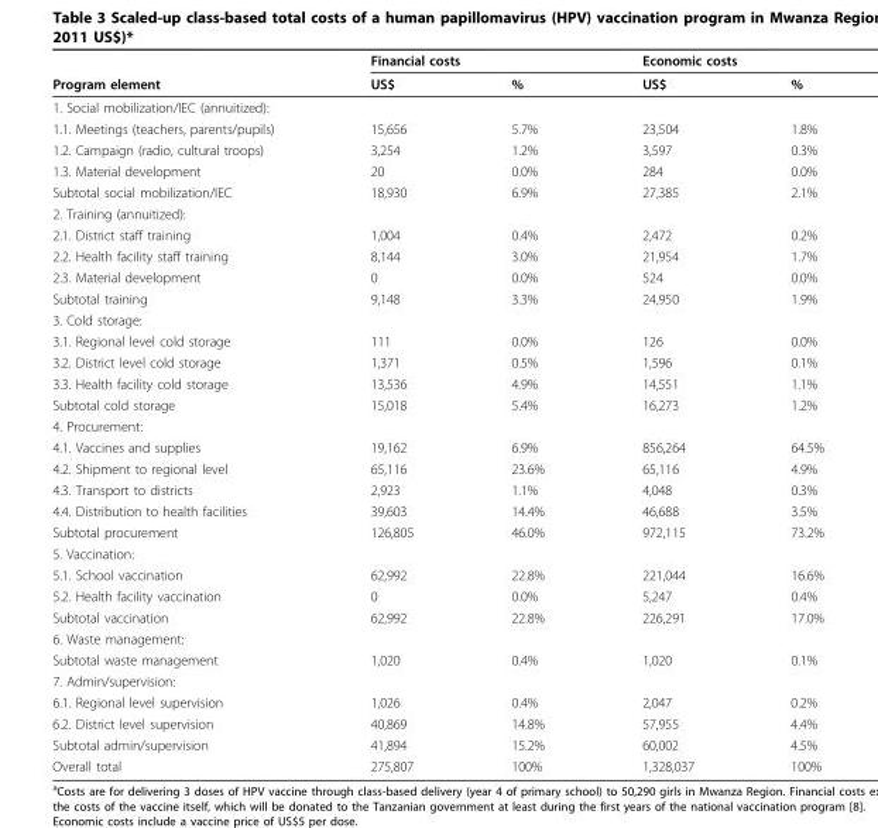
<table><thead><tr><td rowspan="2">Program element</td><td colspan="2">Financial costs</td><td colspan="2">Economic costs</td></tr><tr><td>US$</td><td>%</td><td>US$</td><td>%</td></tr></thead><tbody><tr><td colspan="5">1. Social mobilization/IEC (annuitized):</td></tr><tr><td>1.1. Meetings (teachers, parents/pupils)</td><td>15,656</td><td>5.7%</td><td>23,504</td><td>1.8%</td></tr><tr><td>1.2. Campaign (radio, cultural troops)</td><td>3,254</td><td>1.2%</td><td>3,597</td><td>0.3%</td></tr><tr><td>1.3. Material development</td><td>20</td><td>0.0%</td><td>284</td><td>0.0%</td></tr><tr><td>Subtotal social mobilization/IEC</td><td>18,930</td><td>6.9%</td><td>27,385</td><td>2.1%</td></tr><tr><td colspan="5">2. Training (annuitized):</td></tr><tr><td>2.1. District staff training</td><td>1,004</td><td>0.4%</td><td>2,472</td><td>0.2%</td></tr><tr><td>2.2. Health facility staff training</td><td>8,144</td><td>3.0%</td><td>21,954</td><td>1.7%</td></tr><tr><td>2.3. Material development</td><td>0</td><td>0.0%</td><td>524</td><td>0.0%</td></tr><tr><td>Subtotal training</td><td>9,148</td><td>3.3%</td><td>24,950</td><td>1.9%</td></tr><tr><td colspan="5">3. Cold storage:</td></tr><tr><td>3.1. Regional level cold storage</td><td>111</td><td>0.0%</td><td>126</td><td>0.0%</td></tr><tr><td>3.2. District level cold storage</td><td>1,371</td><td>0.5%</td><td>1,596</td><td>0.1%</td></tr><tr><td>3.3. Health facility cold storage</td><td>13,536</td><td>4.9%</td><td>14,551</td><td>1.1%</td></tr><tr><td>Subtotal cold storage</td><td>15,018</td><td>5.4%</td><td>16,273</td><td>1.2%</td></tr><tr><td colspan="5">4. Procurement:</td></tr><tr><td>4.1. Vaccines and supplies</td><td>19,162</td><td>6.9%</td><td>856,264</td><td>64.5%</td></tr><tr><td>4.2. Shipment to regional level</td><td>65,116</td><td>23.6%</td><td>65,116</td><td>4.9%</td></tr><tr><td>4.3. Transport to districts</td><td>2,923</td><td>1.1%</td><td>4,048</td><td>0.3%</td></tr><tr><td>4.4. Distribution to health facilities</td><td>39,603</td><td>14.4%</td><td>46,688</td><td>3.5%</td></tr><tr><td>Subtotal procurement</td><td>126,805</td><td>46.0%</td><td>972,115</td><td>73.2%</td></tr><tr><td colspan="5">5. Vaccination:</td></tr><tr><td>5.1. School vaccination</td><td>62,992</td><td>22.8%</td><td>221,044</td><td>16.6%</td></tr><tr><td>5.2. Health facility vaccination</td><td>0</td><td>0.0%</td><td>5,247</td><td>0.4%</td></tr><tr><td>Subtotal vaccination</td><td>62,992</td><td>22.8%</td><td>226,291</td><td>17.0%</td></tr><tr><td colspan="5">6. Waste management:</td></tr><tr><td>Subtotal waste management</td><td>1,020</td><td>0.4%</td><td>1,020</td><td>0.1%</td></tr><tr><td colspan="5">7. Admin/supervision:</td></tr><tr><td>6.1. Regional level supervision</td><td>1,026</td><td>0.4%</td><td>2,047</td><td>0.2%</td></tr><tr><td>6.2. District level supervision</td><td>40,869</td><td>14.8%</td><td>57,955</td><td>4.4%</td></tr><tr><td>Subtotal admin/supervision</td><td>41,894</td><td>15.2%</td><td>60,002</td><td>4.5%</td></tr><tr><td>Overall total</td><td>275,807</td><td>100%</td><td>1,328,037</td><td>100%</td></tr></tbody></table>